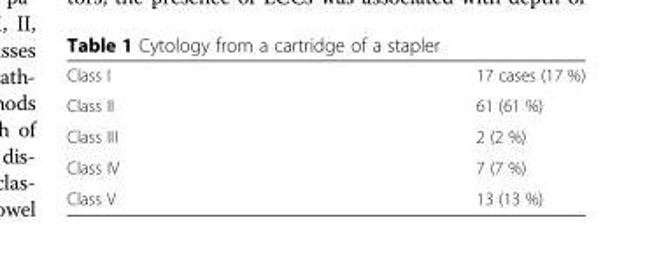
<table><tbody><tr><td>Class I</td><td>17 cases (17 %)</td></tr><tr><td>Class II</td><td>61 (61 %)</td></tr><tr><td>Class III</td><td>2 (2 %)</td></tr><tr><td>Class IV</td><td>7 (7 %)</td></tr><tr><td>Class V</td><td>13 (13 %)</td></tr></tbody></table>